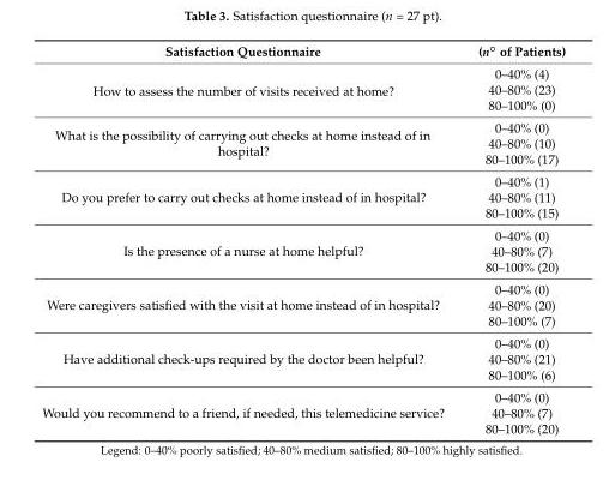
<table><thead><tr><td>Satisfaction Questionnaire</td><td>(n◦ of Patients)</td></tr></thead><tbody><tr><td rowspan="3">How to assess the number of visits received at home?</td><td>0–40% (4)</td></tr><tr><td>40–80% (23)</td></tr><tr><td>80–100% (0)</td></tr><tr><td rowspan="3">What is the possibility of carrying out checks at home instead of in hospital?</td><td>0–40% (0)</td></tr><tr><td>40–80% (10)</td></tr><tr><td>80–100% (17)</td></tr><tr><td rowspan="3">Do you prefer to carry out checks at home instead of in hospital?</td><td>0–40% (1)</td></tr><tr><td>40–80% (11)</td></tr><tr><td>80–100% (15)</td></tr><tr><td rowspan="3">Is the presence of a nurse at home helpful?</td><td>0–40% (0)</td></tr><tr><td>40–80% (7)</td></tr><tr><td>80–100% (20)</td></tr><tr><td rowspan="3">Were caregivers satisfied with the visit at home instead of in hospital?</td><td>0–40% (0)</td></tr><tr><td>40–80% (20)</td></tr><tr><td>80–100% (7)</td></tr><tr><td rowspan="3">Have additional check-ups required by the doctor been helpful?</td><td>0–40% (0)</td></tr><tr><td>40–80% (21)</td></tr><tr><td>80–100% (6)</td></tr><tr><td rowspan="3">Would you recommend to a friend, if needed, this telemedicine service?</td><td>0–40% (0)</td></tr><tr><td>40–80% (7)</td></tr><tr><td>80–100% (20)</td></tr></tbody></table>